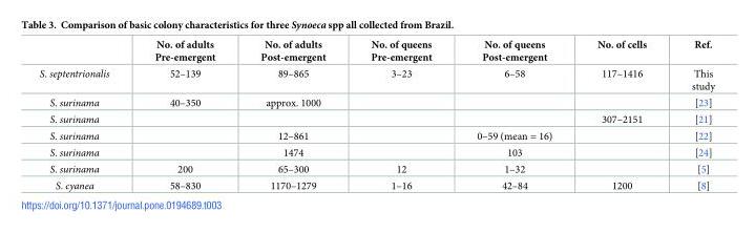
<table><thead><tr><td></td><td>No. of adults Pre-emergent</td><td>No. of adults Post-emergent</td><td>No. of queens Pre-emergent</td><td>No. of queens Post-emergent</td><td>No. of cells</td><td>Ref.</td></tr></thead><tbody><tr><td>S. septentrionalis</td><td>52–139</td><td>89–865</td><td>3–23</td><td>6–58</td><td>117–1416</td><td>This study</td></tr><tr><td>S. surinama</td><td>40–350</td><td>approx. 1000</td><td></td><td></td><td></td><td>[23]</td></tr><tr><td>S. surinama</td><td></td><td></td><td></td><td></td><td>307–2151</td><td>[21]</td></tr><tr><td>S. surinama</td><td></td><td>12–861</td><td></td><td>0–59 (mean = 16)</td><td></td><td>[22]</td></tr><tr><td>S. surinama</td><td></td><td>1474</td><td></td><td>103</td><td></td><td>[24]</td></tr><tr><td>S. surinama</td><td>200</td><td>65–300</td><td>12</td><td>1–32</td><td></td><td>[5]</td></tr><tr><td>S. cyanea</td><td>58–830</td><td>1170–1279</td><td>1–16</td><td>42–84</td><td>1200</td><td>[8]</td></tr></tbody></table>